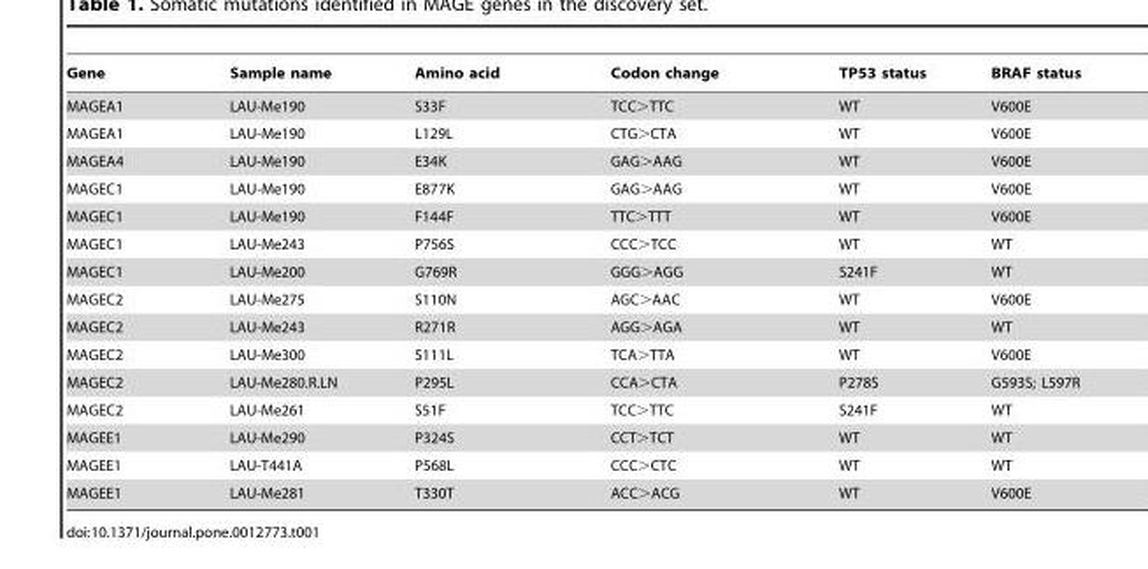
<table><thead><tr><td>Gene</td><td>Sample name</td><td>Amino acid</td><td>Codon change</td><td>TP53 status</td><td>BRAF status</td></tr></thead><tbody><tr><td>MAGEA1</td><td>LAU-Me190</td><td>S33F</td><td>TCC&gt;TTC</td><td>WT</td><td>V600E</td></tr><tr><td>MAGEA1</td><td>LAU-Me190</td><td>L129L</td><td>CTG&gt;CTA</td><td>WT</td><td>V600E</td></tr><tr><td>MAGEA4</td><td>LAU-Me190</td><td>E34K</td><td>GAG&gt;AAG</td><td>WT</td><td>V600E</td></tr><tr><td>MAGEC1</td><td>LAU-Me190</td><td>E877K</td><td>GAG&gt;AAG</td><td>WT</td><td>V600E</td></tr><tr><td>MAGEC1</td><td>LAU-Me190</td><td>F144F</td><td>TTC&gt;TTT</td><td>WT</td><td>V600E</td></tr><tr><td>MAGEC1</td><td>LAU-Me243</td><td>P756S</td><td>CCC&gt;TCC</td><td>WT</td><td>WT</td></tr><tr><td>MAGEC1</td><td>LAU-Me200</td><td>G769R</td><td>GGG&gt;AGG</td><td>S241F</td><td>WT</td></tr><tr><td>MAGEC2</td><td>LAU-Me275</td><td>S110N</td><td>AGC&gt;AAC</td><td>WT</td><td>V600E</td></tr><tr><td>MAGEC2</td><td>LAU-Me243</td><td>R271R</td><td>AGG&gt;AGA</td><td>WT</td><td>WT</td></tr><tr><td>MAGEC2</td><td>LAU-Me300</td><td>S111L</td><td>TCA&gt;TTA</td><td>WT</td><td>V600E</td></tr><tr><td>MAGEC2</td><td>LAU-Me280.R.LN</td><td>P295L</td><td>CCA&gt;CTA</td><td>P278S</td><td>G593S; L597R</td></tr><tr><td>MAGEC2</td><td>LAU-Me261</td><td>S51F</td><td>TCC&gt;TTC</td><td>S241F</td><td>WT</td></tr><tr><td>MAGEE1</td><td>LAU-Me290</td><td>P324S</td><td>CCT&gt;TCT</td><td>WT</td><td>WT</td></tr><tr><td>MAGEE1</td><td>LAU-T441A</td><td>P568L</td><td>CCC&gt;CTC</td><td>WT</td><td>WT</td></tr><tr><td>MAGEE1</td><td>LAU-Me281</td><td>T330T</td><td>ACC&gt;ACG</td><td>WT</td><td>V600E</td></tr></tbody></table>